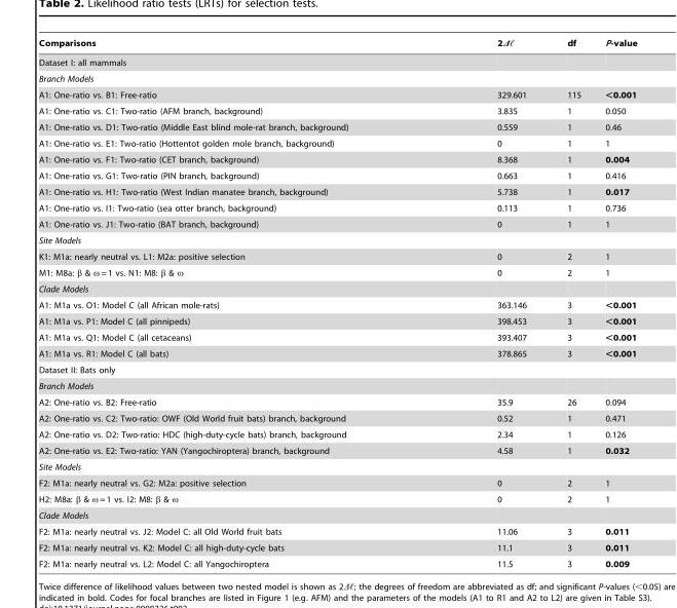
<table><thead><tr><td>Comparisons</td><td>2D,</td><td>df</td><td>P-value</td></tr></thead><tbody><tr><td colspan="4">Dataset I: all mammals</td></tr><tr><td colspan="4">Branch Models</td></tr><tr><td>A1: One-ratio vs. B1: Free-ratio</td><td>329.601</td><td>115</td><td>&lt;0.001</td></tr><tr><td>A1: One-ratio vs. C1: Two-ratio (AFM branch, background)</td><td>3.835</td><td>1</td><td>0.050</td></tr><tr><td>A1: One-ratio vs. D1: Two-ratio (Middle East blind mole-rat branch, background)</td><td>0.559</td><td>1</td><td>0.46</td></tr><tr><td>A1: One-ratio vs. E1: Two-ratio (Hottentot golden mole branch, background)</td><td>0</td><td>1</td><td>1</td></tr><tr><td>A1: One-ratio vs. F1: Two-ratio (CET branch, background)</td><td>8.368</td><td>1</td><td>0.004</td></tr><tr><td>A1: One-ratio vs. G1: Two-ratio (PIN branch, background)</td><td>0.663</td><td>1</td><td>0.416</td></tr><tr><td>A1: One-ratio vs. H1: Two-ratio (West Indian manatee branch, background)</td><td>5.738</td><td>1</td><td>0.017</td></tr><tr><td>A1: One-ratio vs. I1: Two-ratio (sea otter branch, background)</td><td>0.113</td><td>1</td><td>0.736</td></tr><tr><td>A1: One-ratio vs. J1: Two-ratio (BAT branch, background)</td><td>0</td><td>1</td><td>1</td></tr><tr><td colspan="4">Site Models</td></tr><tr><td>K1: M1a: nearly neutral vs. L1: M2a: positive selection</td><td>0</td><td>2</td><td>1</td></tr><tr><td>M1: M8a: β &amp; ω = 1 vs. N1: M8: β &amp; ω</td><td>0</td><td>2</td><td>1</td></tr><tr><td colspan="4">Clade Models</td></tr><tr><td>A1: M1a vs. O1: Model C (all African mole-rats)</td><td>363.146</td><td>3</td><td>&lt;0.001</td></tr><tr><td>A1: M1a vs. P1: Model C (all pinnipeds)</td><td>398.453</td><td>3</td><td>&lt;0.001</td></tr><tr><td>A1: M1a vs. Q1: Model C (all cetaceans)</td><td>393.407</td><td>3</td><td>&lt;0.001</td></tr><tr><td>A1: M1a vs. R1: Model C (all bats)</td><td>378.865</td><td>3</td><td>&lt;0.001</td></tr><tr><td colspan="4">Dataset II: Bats only</td></tr><tr><td colspan="4">Branch Models</td></tr><tr><td>A2: One-ratio vs. B2: Free-ratio</td><td>35.9</td><td>26</td><td>0.094</td></tr><tr><td>A2: One-ratio vs. C2: Two-ratio: OWF (Old World fruit bats) branch, background</td><td>0.52</td><td>1</td><td>0.471</td></tr><tr><td>A2: One-ratio vs. D2: Two-ratio: HDC (high-duty-cycle bats) branch, background</td><td>2.34</td><td>1</td><td>0.126</td></tr><tr><td>A2: One-ratio vs. E2: Two-ratio: YAN (Yangochiroptera) branch, background</td><td>4.58</td><td>1</td><td>0.032</td></tr><tr><td colspan="4">Site Models</td></tr><tr><td>F2: M1a: nearly neutral vs. G2: M2a: positive selection</td><td>0</td><td>2</td><td>1</td></tr><tr><td>H2: M8a: β &amp; ω = 1 vs. I2: M8: β &amp; ω</td><td>0</td><td>2</td><td>1</td></tr><tr><td colspan="4">Clade Models</td></tr><tr><td>F2: M1a: nearly neutral vs. J2: Model C: all Old World fruit bats</td><td>11.06</td><td>3</td><td>0.011</td></tr><tr><td>F2: M1a: nearly neutral vs. K2: Model C: all high-duty-cycle bats</td><td>11.1</td><td>3</td><td>0.011</td></tr><tr><td>F2: M1a: nearly neutral vs. L2: Model C: all Yangochiroptera</td><td>11.5</td><td>3</td><td>0.009</td></tr></tbody></table>